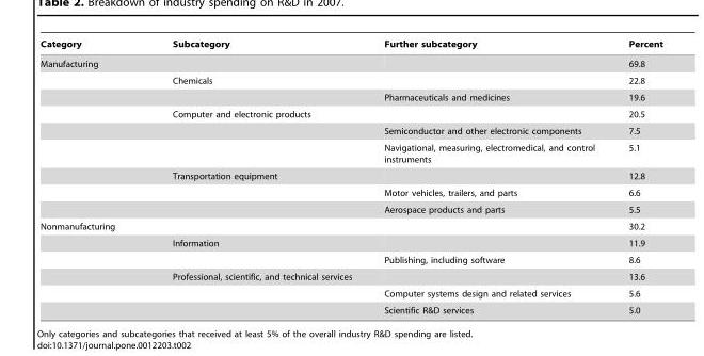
<table><thead><tr><td>Category</td><td>Subcategory</td><td>Further subcategory</td><td>Percent</td></tr></thead><tbody><tr><td rowspan="9">Manufacturing</td><td></td><td></td><td>69.8</td></tr><tr><td>Chemicals</td><td></td><td>22.8</td></tr><tr><td></td><td>Pharmaceuticals and medicines</td><td>19.6</td></tr><tr><td>Computer and electronic products</td><td></td><td>20.5</td></tr><tr><td></td><td>Semiconductor and other electronic components</td><td>7.5</td></tr><tr><td></td><td>Navigational, measuring, electromedical, and control instruments</td><td>5.1</td></tr><tr><td>Transportation equipment</td><td></td><td>12.8</td></tr><tr><td></td><td>Motor vehicles, trailers, and parts</td><td>6.6</td></tr><tr><td></td><td>Aerospace products and parts</td><td>5.5</td></tr><tr><td rowspan="6">Nonmanufacturing</td><td></td><td></td><td>30.2</td></tr><tr><td>Information</td><td></td><td>11.9</td></tr><tr><td></td><td>Publishing, including software</td><td>8.6</td></tr><tr><td>Professional, scientific, and technical services</td><td></td><td>13.6</td></tr><tr><td></td><td>Computer systems design and related services</td><td>5.6</td></tr><tr><td></td><td>Scientific R&amp;D services</td><td>5.0</td></tr></tbody></table>